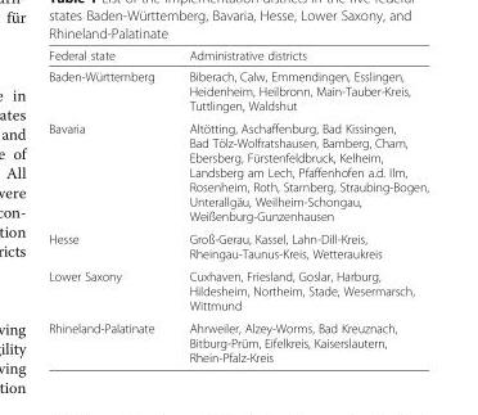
<table><thead><tr><td>Federal state</td><td>Administrative districts</td></tr></thead><tbody><tr><td>Baden-Württemberg</td><td>Biberach, Calw, Emmendingen, Esslingen, Heidenheim, Heilbronn, Main-Tauber-Kreis, Tuttlingen, Waldshut</td></tr><tr><td>Bavaria</td><td>Altötting, Aschaffenburg, Bad Kissingen, Bad Tölz-Wolfratshausen, Bamberg, Cham, Ebersberg, Fürstenfeldbruck, Kelheim, Landsberg am Lech, Pfaffenhofen a.d. Ilm, Rosenheim, Roth, Starnberg, Straubing-Bogen, Unterallgäu, Weilheim-Schongau, Weißenburg-Gunzenhausen</td></tr><tr><td>Hesse</td><td>Groß-Gerau, Kassel, Lahn-Dill-Kreis, Rheingau-Taunus-Kreis, Wetteraukreis</td></tr><tr><td>Lower Saxony</td><td>Cuxhaven, Friesland, Goslar, Harburg, Hildesheim, Northeim, Stade, Wesermarsch, Wittmund</td></tr><tr><td>Rhineland-Palatinate</td><td>Ahrweiler, Alzey-Worms, Bad Kreuznach, Bitburg-Prüm, Eifelkreis, Kaiserslautern, Rhein-Pfalz-Kreis</td></tr></tbody></table>